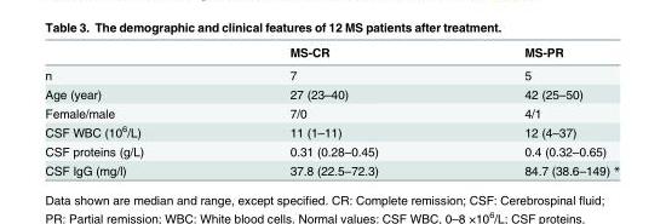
<table><thead><tr><td></td><td>MS-CR</td><td>MS-PR</td></tr></thead><tbody><tr><td>n</td><td>7</td><td>5</td></tr><tr><td>Age (year)</td><td>27 (23–40)</td><td>42 (25–50)</td></tr><tr><td>Female/male</td><td>7/0</td><td>4/1</td></tr><tr><td>CSF WBC (10<sup>6</sup>/L)</td><td>11 (1–11)</td><td>12 (4–37)</td></tr><tr><td>CSF proteins (g/L)</td><td>0.31 (0.28–0.45)</td><td>0.4 (0.32–0.65)</td></tr><tr><td>CSF IgG (mg/l)</td><td>37.8 (22.5–72.3)</td><td>84.7 (38.6–149) *</td></tr></tbody></table>